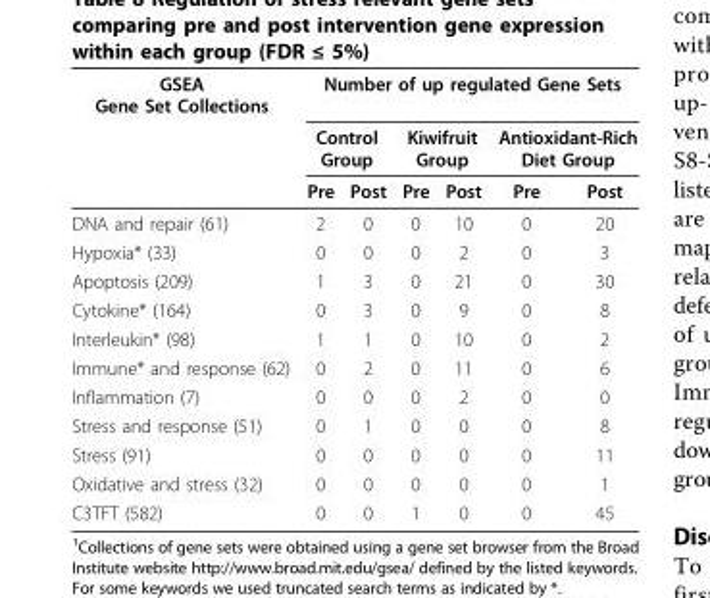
<table><thead><tr><td rowspan="3">GSEA Gene Set Collections</td><td colspan="6">Number of up regulated Gene Sets</td></tr><tr><td colspan="2">Control Group</td><td colspan="2">Kiwifruit Group</td><td colspan="2">Antioxidant-Rich Diet Group</td></tr><tr><td>Pre</td><td>Post</td><td>Pre</td><td>Post</td><td>Pre</td><td>Post</td></tr></thead><tbody><tr><td>DNA and repair (61)</td><td>2</td><td>0</td><td>0</td><td>10</td><td>0</td><td>20</td></tr><tr><td>Hypoxia* (33)</td><td>0</td><td>0</td><td>0</td><td>2</td><td>0</td><td>3</td></tr><tr><td>Apoptosis (209)</td><td>1</td><td>3</td><td>0</td><td>21</td><td>0</td><td>30</td></tr><tr><td>Cytokine* (164)</td><td>0</td><td>3</td><td>0</td><td>9</td><td>0</td><td>8</td></tr><tr><td>Interleukin* (98)</td><td>1</td><td>1</td><td>0</td><td>10</td><td>0</td><td>2</td></tr><tr><td>Immune* and response (62)</td><td>0</td><td>2</td><td>0</td><td>11</td><td>0</td><td>6</td></tr><tr><td>Inflammation (7)</td><td>0</td><td>0</td><td>0</td><td>2</td><td>0</td><td>0</td></tr><tr><td>Stress and response (51)</td><td>0</td><td>1</td><td>0</td><td>0</td><td>0</td><td>8</td></tr><tr><td>Stress (91)</td><td>0</td><td>0</td><td>0</td><td>0</td><td>0</td><td>11</td></tr><tr><td>Oxidative and stress (32)</td><td>0</td><td>0</td><td>0</td><td>0</td><td>0</td><td>1</td></tr><tr><td>C3TFT (582)</td><td>0</td><td>0</td><td>1</td><td>0</td><td>0</td><td>45</td></tr></tbody></table>